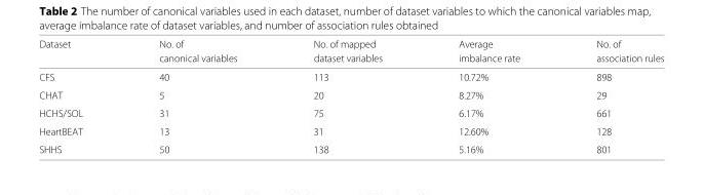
<table><thead><tr><td rowspan="2">Dataset</td><td rowspan="2">No. of canonical variables</td><td rowspan="2">No. of mapped dataset variables</td><td rowspan="2">Average imbalance rate</td><td rowspan="2">No. of association rules</td></tr><tr></tr></thead><tbody><tr><td>CFS</td><td>40</td><td>113</td><td>10.72%</td><td>898</td></tr><tr><td>CHAT</td><td>5</td><td>20</td><td>8.27%</td><td>29</td></tr><tr><td>HCHS/SOL</td><td>31</td><td>75</td><td>6.17%</td><td>661</td></tr><tr><td>HeartBEAT</td><td>13</td><td>31</td><td>12.60%</td><td>128</td></tr><tr><td>SHHS</td><td>50</td><td>138</td><td>5.16%</td><td>801</td></tr></tbody></table>